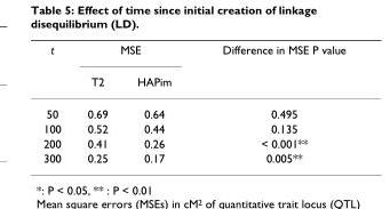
<table><thead><tr><td rowspan="2">t</td><td colspan="2">MSE</td><td rowspan="2">Difference in MSE P value</td></tr><tr><td>T2</td><td>HAPim</td></tr></thead><tbody><tr><td>50</td><td>0.69</td><td>0.64</td><td>0.495</td></tr><tr><td>100</td><td>0.52</td><td>0.44</td><td>0.135</td></tr><tr><td>200</td><td>0.41</td><td>0.26</td><td>&lt; 0.001**</td></tr><tr><td>300</td><td>0.25</td><td>0.17</td><td>0.005**</td></tr></tbody></table>